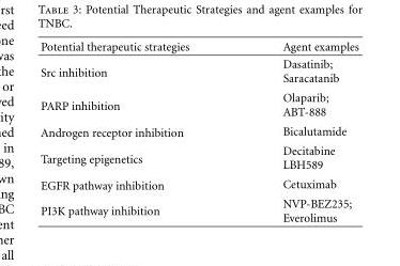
<table><thead><tr><td>Potential therapeutic strategies</td><td>Agent examples</td></tr></thead><tbody><tr><td>Src inhibition</td><td>Dasatinib; Saracatanib</td></tr><tr><td>PARP inhibition</td><td>Olaparib; ABT-888</td></tr><tr><td>Androgen receptor inhibition</td><td>Bicalutamide</td></tr><tr><td>Targeting epigenetics</td><td>Decitabine LBH589</td></tr><tr><td>EGFR pathway inhibition</td><td>Cetuximab</td></tr><tr><td>PI3K pathway inhibition</td><td>NVP-BEZ235; Everolimus</td></tr></tbody></table>